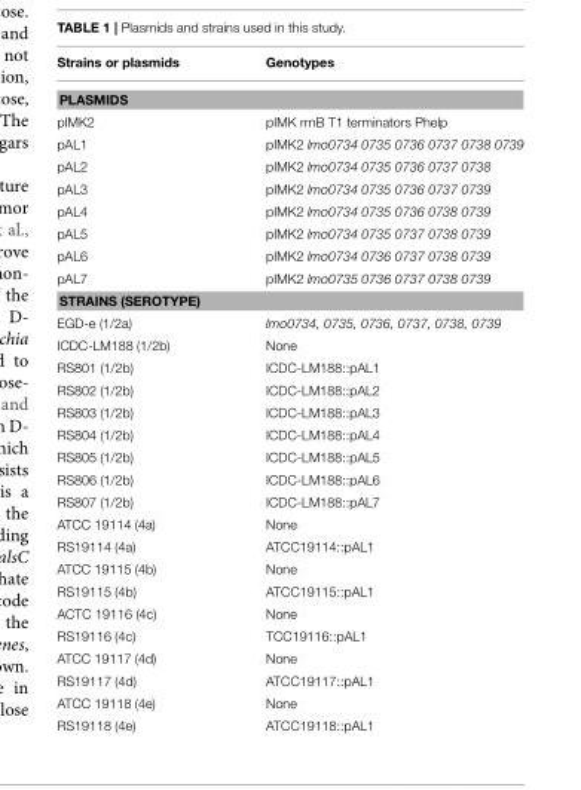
<table><thead><tr><td>Strains or plasmids</td><td>Genotypes</td></tr></thead><tbody><tr><td colspan="2">PLASMIDS</td></tr><tr><td>pIMK2</td><td>pIMK rrnB T1 terminators Phelp</td></tr><tr><td>pAL1</td><td>pIMK2 lmo0734 0735 0736 0737 0738 0739</td></tr><tr><td>pAL2</td><td>pIMK2 lmo0734 0735 0736 0737 0738</td></tr><tr><td>pAL3</td><td>pIMK2 lmo0734 0735 0736 0737 0739</td></tr><tr><td>pAL4</td><td>pIMK2 lmo0734 0735 0736 0738 0739</td></tr><tr><td>pAL5</td><td>pIMK2 lmo0734 0735 0737 0738 0739</td></tr><tr><td>pAL6</td><td>pIMK2 lmo0734 0736 0737 0738 0739</td></tr><tr><td>pAL7</td><td>pIMK2 lmo0735 0736 0737 0738 0739</td></tr><tr><td colspan="2">STRAINS (SEROTYPE)</td></tr><tr><td>EGD-e (1/2a)</td><td>lmo0734, 0735, 0736, 0737, 0738, 0739</td></tr><tr><td>ICDC-LM188 (1/2b)</td><td>None</td></tr><tr><td>RS801 (1/2b)</td><td>ICDC-LM188::pAL1</td></tr><tr><td>RS802 (1/2b)</td><td>ICDC-LM188::pAL2</td></tr><tr><td>RS803 (1/2b)</td><td>ICDC-LM188::pAL3</td></tr><tr><td>RS804 (1/2b)</td><td>ICDC-LM188::pAL4</td></tr><tr><td>RS805 (1/2b)</td><td>ICDC-LM188::pAL5</td></tr><tr><td>RS806 (1/2b)</td><td>ICDC-LM188::pAL6</td></tr><tr><td>RS807 (1/2b)</td><td>ICDC-LM188::pAL7</td></tr><tr><td>ATCC 19114 (4a)</td><td>None</td></tr><tr><td>RS19114 (4a)</td><td>ATCC19114::pAL1</td></tr><tr><td>ATCC 19115 (4b)</td><td>None</td></tr><tr><td>RS19115 (4b)</td><td>ATCC19115::pAL1</td></tr><tr><td>ACTC 19116 (4c)</td><td>None</td></tr><tr><td>RS19116 (4c)</td><td>TCC19116::pAL1</td></tr><tr><td>ATCC 19117 (4d)</td><td>None</td></tr><tr><td>RS19117 (4d)</td><td>ATCC19117::pAL1</td></tr><tr><td>ATCC 19118 (4e)</td><td>None</td></tr><tr><td>RS19118 (4e)</td><td>ATCC19118::pAL1</td></tr></tbody></table>